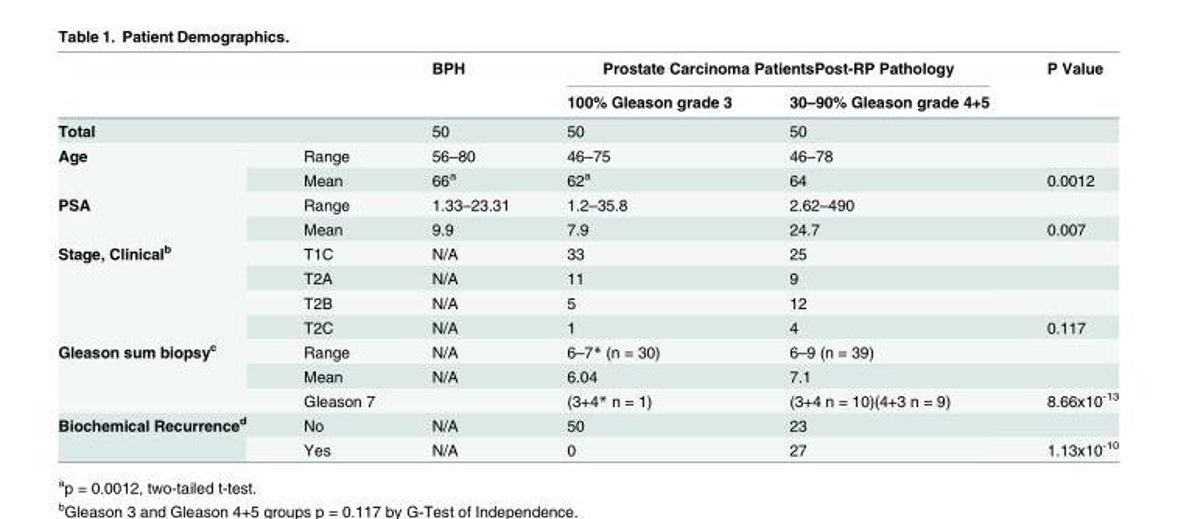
<table><thead><tr><td rowspan="2"></td><td rowspan="2"></td><td rowspan="2">BPH</td><td colspan="2">Prostate Carcinoma PatientsPost-RP Pathology</td><td rowspan="2">P Value</td></tr><tr><td>100% Gleason grade 3</td><td>30–90% Gleason grade 4+5</td></tr></thead><tbody><tr><td colspan="2">Total</td><td>50</td><td>50</td><td>50</td><td></td></tr><tr><td rowspan="2">Age</td><td>Range</td><td>56–80</td><td>46–75</td><td>46–78</td><td></td></tr><tr><td>Mean</td><td>66<sup>a</sup></td><td>62<sup>a</sup></td><td>64</td><td>0.0012</td></tr><tr><td rowspan="2">PSA</td><td>Range</td><td>1.33–23.31</td><td>1.2–35.8</td><td>2.62–490</td><td></td></tr><tr><td>Mean</td><td>9.9</td><td>7.9</td><td>24.7</td><td>0.007</td></tr><tr><td rowspan="4">Stage, Clinical<sup>b</sup></td><td>T1C</td><td>N/A</td><td>33</td><td>25</td><td></td></tr><tr><td>T2A</td><td>N/A</td><td>11</td><td>9</td><td></td></tr><tr><td>T2B</td><td>N/A</td><td>5</td><td>12</td><td></td></tr><tr><td>T2C</td><td>N/A</td><td>1</td><td>4</td><td>0.117</td></tr><tr><td rowspan="3">Gleason sum biopsy<sup>c</sup></td><td>Range</td><td>N/A</td><td>6–7* (n = 30)</td><td>6–9 (n = 39)</td><td></td></tr><tr><td>Mean</td><td>N/A</td><td>6.04</td><td>7.1</td><td></td></tr><tr><td>Gleason 7</td><td></td><td>(3+4* n = 1)</td><td>(3+4 n = 10)(4+3 n = 9)</td><td>8.66x10<sup>-13</sup></td></tr><tr><td rowspan="2">Biochemical Recurrence<sup>d</sup></td><td>No</td><td>N/A</td><td>50</td><td>23</td><td></td></tr><tr><td>Yes</td><td>N/A</td><td>0</td><td>27</td><td>1.13x10<sup>-10</sup></td></tr></tbody></table>